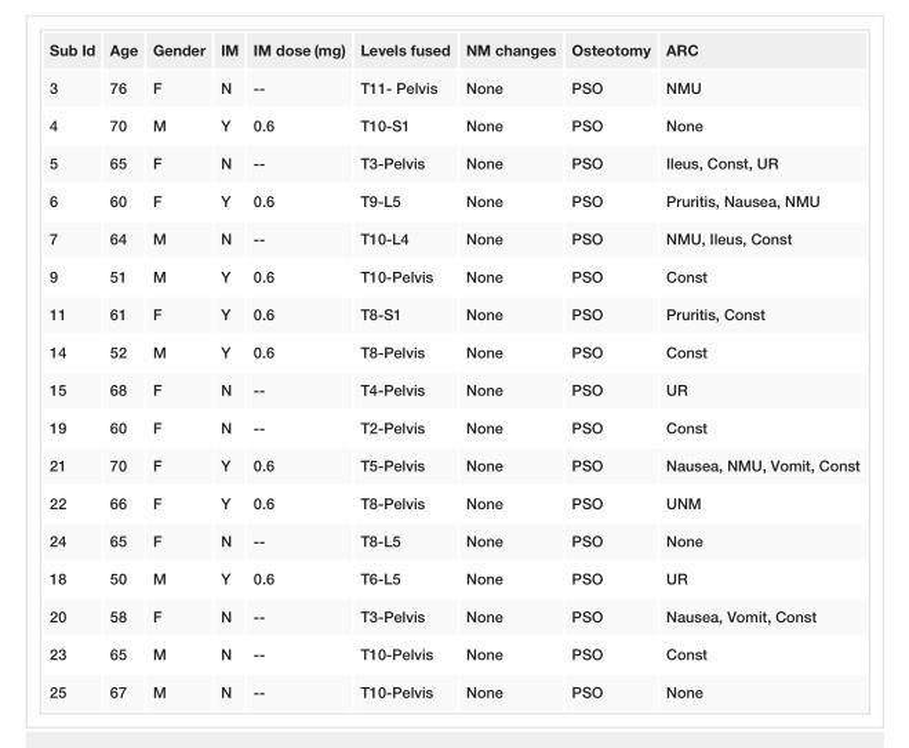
<table><tbody><tr><td>Sub Id</td><td>Age</td><td>Gender</td><td>IM</td><td>IM dose (mg)</td><td>Levels fused</td><td>NM changes</td><td>Osteotomy</td><td>ARC</td></tr><tr><td>3</td><td>76</td><td>F</td><td>N</td><td>--</td><td>T11- Pelvis</td><td>None</td><td>PSO</td><td>NMU</td></tr><tr><td>4</td><td>70</td><td>M</td><td>Y</td><td>0.6</td><td>T10-S1</td><td>None</td><td>PSO</td><td>None</td></tr><tr><td>5</td><td>65</td><td>F</td><td>N</td><td>--</td><td>T3-Pelvis</td><td>None</td><td>PSO</td><td>Ileus, Const, UR</td></tr><tr><td>6</td><td>60</td><td>F</td><td>Y</td><td>0.6</td><td>T9-L5</td><td>None</td><td>PSO</td><td>Pruritis, Nausea, NMU</td></tr><tr><td>7</td><td>64</td><td>M</td><td>N</td><td>--</td><td>T10-L4</td><td>None</td><td>PSO</td><td>NMU, Ileus, Const</td></tr><tr><td>9</td><td>51</td><td>M</td><td>Y</td><td>0.6</td><td>T10-Pelvis</td><td>None</td><td>PSO</td><td>Const</td></tr><tr><td>11</td><td>61</td><td>F</td><td>Y</td><td>0.6</td><td>T8-S1</td><td>None</td><td>PSO</td><td>Pruritis, Const</td></tr><tr><td>14</td><td>52</td><td>M</td><td>Y</td><td>0.6</td><td>T8-Pelvis</td><td>None</td><td>PSO</td><td>Const</td></tr><tr><td>15</td><td>68</td><td>F</td><td>N</td><td>--</td><td>T4-Pelvis</td><td>None</td><td>PSO</td><td>UR</td></tr><tr><td>19</td><td>60</td><td>F</td><td>N</td><td>--</td><td>T2-Pelvis</td><td>None</td><td>PSO</td><td>Const</td></tr><tr><td>21</td><td>70</td><td>F</td><td>Y</td><td>0.6</td><td>T5-Pelvis</td><td>None</td><td>PSO</td><td>Nausea, NMU, Vomit, Const</td></tr><tr><td>22</td><td>66</td><td>F</td><td>Y</td><td>0.6</td><td>T8-Pelvis</td><td>None</td><td>PSO</td><td>UNM</td></tr><tr><td>24</td><td>65</td><td>F</td><td>N</td><td>--</td><td>T8-L5</td><td>None</td><td>PSO</td><td>None</td></tr><tr><td>18</td><td>50</td><td>M</td><td>Y</td><td>0.6</td><td>T6-L5</td><td>None</td><td>PSO</td><td>UR</td></tr><tr><td>20</td><td>58</td><td>F</td><td>N</td><td>--</td><td>T3-Pelvis</td><td>None</td><td>PSO</td><td>Nausea, Vomit, Const</td></tr><tr><td>23</td><td>65</td><td>M</td><td>N</td><td>--</td><td>T10-Pelvis</td><td>None</td><td>PSO</td><td>Const</td></tr><tr><td>25</td><td>67</td><td>M</td><td>N</td><td>--</td><td>T10-Pelvis</td><td>None</td><td>PSO</td><td>None</td></tr></tbody></table>